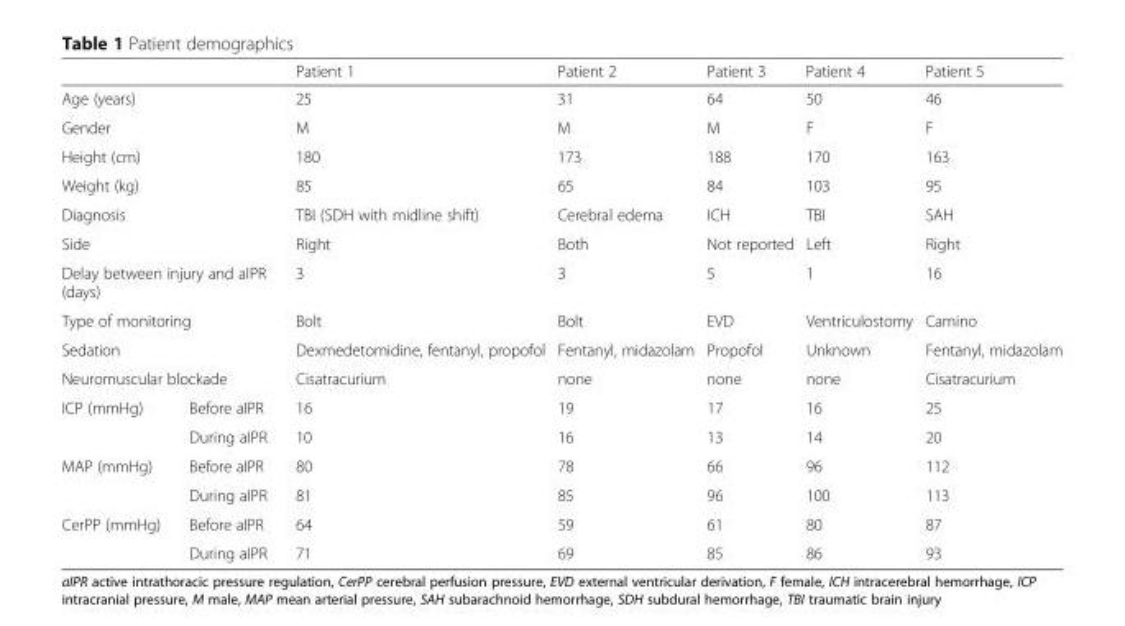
<table><thead><tr><td></td><td></td><td>Patient 1</td><td>Patient 2</td><td>Patient 3</td><td>Patient 4</td><td>Patient 5</td></tr></thead><tbody><tr><td colspan="2">Age (years)</td><td>25</td><td>31</td><td>64</td><td>50</td><td>46</td></tr><tr><td colspan="2">Gender</td><td>M</td><td>M</td><td>M</td><td>F</td><td>F</td></tr><tr><td colspan="2">Height (cm)</td><td>180</td><td>173</td><td>188</td><td>170</td><td>163</td></tr><tr><td colspan="2">Weight (kg)</td><td>85</td><td>65</td><td>84</td><td>103</td><td>95</td></tr><tr><td colspan="2">Diagnosis</td><td>TBI (SDH with midline shift)</td><td>Cerebral edema</td><td>ICH</td><td>TBI</td><td>SAH</td></tr><tr><td colspan="2">Side</td><td>Right</td><td>Both</td><td>Not reported</td><td>Left</td><td>Right</td></tr><tr><td colspan="2">Delay between injury and aIPR (days)</td><td>3</td><td>3</td><td>5</td><td>1</td><td>16</td></tr><tr><td colspan="2">Type of monitoring</td><td>Bolt</td><td>Bolt</td><td>EVD</td><td>Ventriculostomy</td><td>Camino</td></tr><tr><td colspan="2">Sedation</td><td>Dexmedetomidine, fentanyl, propofol</td><td>Fentanyl, midazolam</td><td>Propofol</td><td>Unknown</td><td>Fentanyl, midazolam</td></tr><tr><td colspan="2">Neuromuscular blockade</td><td>Cisatracurium</td><td>none</td><td>none</td><td>none</td><td>Cisatracurium</td></tr><tr><td rowspan="2">ICP (mmHg)</td><td>Before aIPR</td><td>16</td><td>19</td><td>17</td><td>16</td><td>25</td></tr><tr><td>During aIPR</td><td>10</td><td>16</td><td>13</td><td>14</td><td>20</td></tr><tr><td rowspan="2">MAP (mmHg)</td><td>Before aIPR</td><td>80</td><td>78</td><td>66</td><td>96</td><td>112</td></tr><tr><td>During aIPR</td><td>81</td><td>85</td><td>96</td><td>100</td><td>113</td></tr><tr><td rowspan="2">CerPP (mmHg)</td><td>Before aIPR</td><td>64</td><td>59</td><td>61</td><td>80</td><td>87</td></tr><tr><td>During aIPR</td><td>71</td><td>69</td><td>85</td><td>86</td><td>93</td></tr></tbody></table>